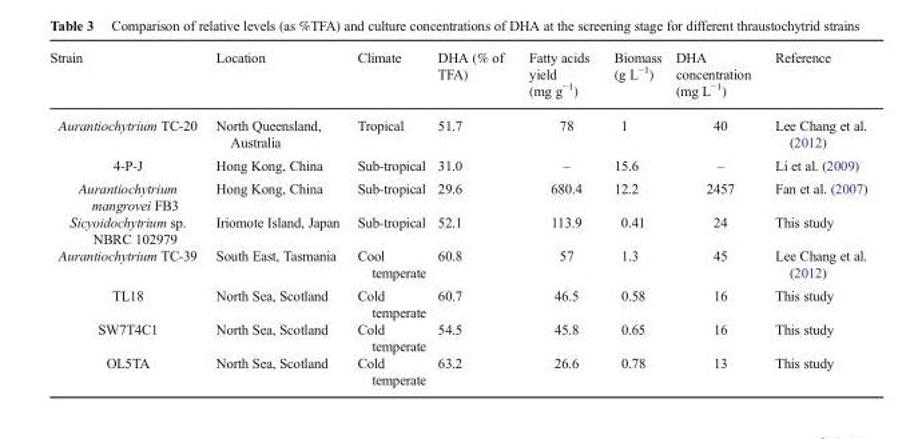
<table><thead><tr><td>Strain</td><td>Location</td><td>Climate</td><td>DHA (% of TFA)</td><td>Fatty acids yield (mg g<sup>−1</sup>)</td><td>Biomass (g L<sup>−1</sup>)</td><td>DHA concentration (mg L<sup>−1</sup>)</td><td>Reference</td></tr></thead><tbody><tr><td>Aurantiochytrium TC-20</td><td>North Queensland, Australia</td><td>Tropical</td><td>51.7</td><td>78</td><td>1</td><td>40</td><td>Lee Chang et al. (2012)</td></tr><tr><td>4-P-J</td><td>Hong Kong, China</td><td>Sub-tropical</td><td>31.0</td><td>–</td><td>15.6</td><td>–</td><td>Li et al. (2009)</td></tr><tr><td>Aurantiochytrium mangrovei FB3</td><td>Hong Kong, China</td><td>Sub-tropical</td><td>29.6</td><td>680.4</td><td>12.2</td><td>2457</td><td>Fan et al. (2007)</td></tr><tr><td>Sicyoidochytrium sp. NBRC 102979</td><td>Iriomote Island, Japan</td><td>Sub-tropical</td><td>52.1</td><td>113.9</td><td>0.41</td><td>24</td><td>This study</td></tr><tr><td>Aurantiochytrium TC-39</td><td>South East, Tasmania</td><td>Cool temperate</td><td>60.8</td><td>57</td><td>1.3</td><td>45</td><td>Lee Chang et al. (2012)</td></tr><tr><td>TL18</td><td>North Sea, Scotland</td><td>Cold temperate</td><td>60.7</td><td>46.5</td><td>0.58</td><td>16</td><td>This study</td></tr><tr><td>SW7T4C1</td><td>North Sea, Scotland</td><td>Cold temperate</td><td>54.5</td><td>45.8</td><td>0.65</td><td>16</td><td>This study</td></tr><tr><td>OL5TA</td><td>North Sea, Scotland</td><td>Cold temperate</td><td>63.2</td><td>26.6</td><td>0.78</td><td>13</td><td>This study</td></tr></tbody></table>